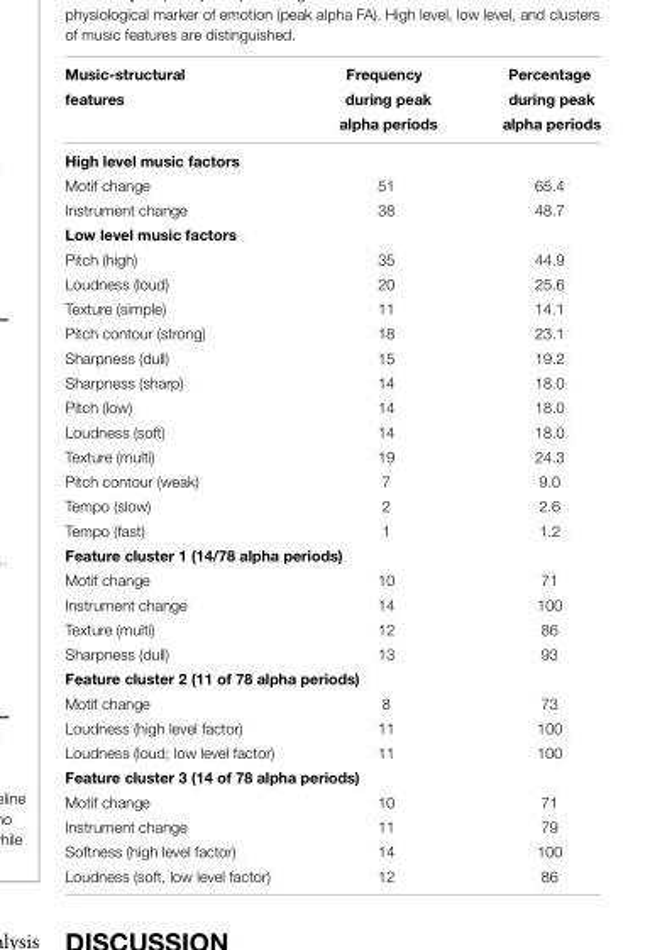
<table><thead><tr><td rowspan="3">Music-structural features</td><td rowspan="3">Frequency during peak alpha periods</td><td rowspan="3">Percentage during peak alpha periods</td></tr><tr></tr><tr></tr></thead><tbody><tr><td colspan="3">High level music factors</td></tr><tr><td>Motif change</td><td>51</td><td>65.4</td></tr><tr><td>Instrument change</td><td>38</td><td>48.7</td></tr><tr><td colspan="3">Low level music factors</td></tr><tr><td>Pitch (high)</td><td>35</td><td>44.9</td></tr><tr><td>Loudness (loud)</td><td>20</td><td>25.6</td></tr><tr><td>Texture (simple)</td><td>11</td><td>14.1</td></tr><tr><td>Pitch contour (strong)</td><td>18</td><td>23.1</td></tr><tr><td>Sharpness (dull)</td><td>15</td><td>19.2</td></tr><tr><td>Sharpness (sharp)</td><td>14</td><td>18.0</td></tr><tr><td>Pitch (low)</td><td>14</td><td>18.0</td></tr><tr><td>Loudness (soft)</td><td>14</td><td>18.0</td></tr><tr><td>Texture (multi)</td><td>19</td><td>24.3</td></tr><tr><td>Pitch contour (weak)</td><td>7</td><td>9.0</td></tr><tr><td>Tempo (slow)</td><td>2</td><td>2.6</td></tr><tr><td>Tempo (fast)</td><td>1</td><td>1.2</td></tr><tr><td colspan="3">Feature cluster 1 (14/78 alpha periods)</td></tr><tr><td>Motif change</td><td>10</td><td>71</td></tr><tr><td>Instrument change</td><td>14</td><td>100</td></tr><tr><td>Texture (multi)</td><td>12</td><td>86</td></tr><tr><td>Sharpness (dull)</td><td>13</td><td>93</td></tr><tr><td colspan="3">Feature cluster 2 (11 of 78 alpha periods)</td></tr><tr><td>Motif change</td><td>8</td><td>73</td></tr><tr><td>Loudness (high level factor)</td><td>11</td><td>100</td></tr><tr><td>Loudness (loud; low level factor)</td><td>11</td><td>100</td></tr><tr><td colspan="3">Feature cluster 3 (14 of 78 alpha periods)</td></tr><tr><td>Motif change</td><td>10</td><td>71</td></tr><tr><td>Instrument change</td><td>11</td><td>79</td></tr><tr><td>Softness (high level factor)</td><td>14</td><td>100</td></tr><tr><td>Loudness (soft, low level factor)</td><td>12</td><td>86</td></tr></tbody></table>